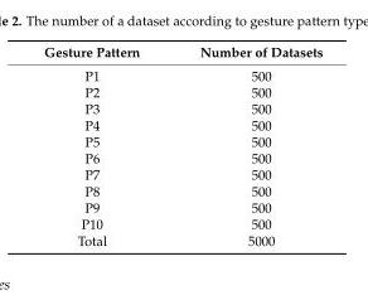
<table><thead><tr><td>Gesture Pattern</td><td>Number of Datasets</td></tr></thead><tbody><tr><td>P1</td><td>500</td></tr><tr><td>P2</td><td>500</td></tr><tr><td>P3</td><td>500</td></tr><tr><td>P4</td><td>500</td></tr><tr><td>P5</td><td>500</td></tr><tr><td>P6</td><td>500</td></tr><tr><td>P7</td><td>500</td></tr><tr><td>P8</td><td>500</td></tr><tr><td>P9</td><td>500</td></tr><tr><td>P10</td><td>500</td></tr><tr><td>Total</td><td>5000</td></tr></tbody></table>